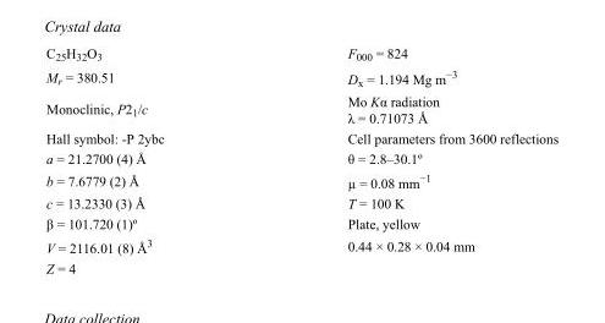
<table><tbody><tr><td>C<sub>25</sub>H<sub>32</sub>O<sub>3</sub></td><td>F000 = 824</td></tr><tr><td>M<sub>r</sub> = 380.51</td><td>D<sub>x</sub> = 1.194 Mg m<sup>−3</sup></td></tr><tr><td>Monoclinic, P2<sub>1</sub>/c</td><td>Mo Kα radiation λ = 0.71073 Å</td></tr><tr><td>Hall symbol: -P 2ybc</td><td>Cell parameters from 3600 reflections</td></tr><tr><td>a = 21.2700 (4) Å</td><td>θ = 2.8–30.1º</td></tr><tr><td>b = 7.6779 (2) Å</td><td>µ = 0.08 mm<sup>−1</sup></td></tr><tr><td>c = 13.2330 (3) Å</td><td>T = 100 K</td></tr><tr><td>β = 101.720 (1)º</td><td>Plate, yellow</td></tr><tr><td>V = 2116.01 (8) Å<sup>3</sup></td><td>0.44 × 0.28 × 0.04 mm</td></tr><tr><td>Z = 4</td><td></td></tr></tbody></table>